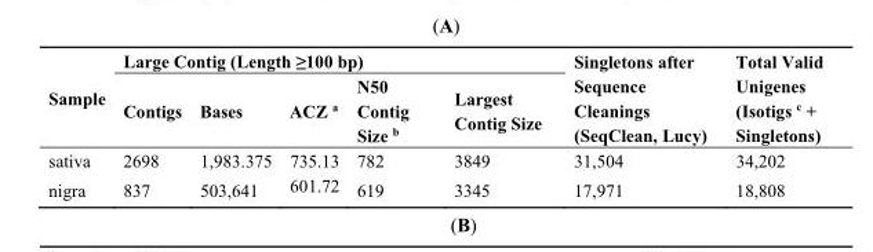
<table><thead><tr><td rowspan="2">Sample</td><td colspan="5">Large Contig (Length ≥100 bp)</td><td rowspan="2">Singletons after Sequence Cleanings (SeqClean, Lucy)</td><td rowspan="2">Total Valid Unigenes (Isotigs <sup>c</sup> + Singletons)</td></tr><tr><td>Contigs</td><td>Bases</td><td>ACZ <sup>a</sup></td><td>N50 Contig Size <sup>b</sup></td><td>Largest Contig Size</td></tr></thead><tbody><tr><td>sativa</td><td>2698</td><td>1,983.375</td><td>735.13</td><td>782</td><td>3849</td><td>31,504</td><td>34,202</td></tr><tr><td>nigra</td><td>837</td><td>503,641</td><td>601.72</td><td>619</td><td>3345</td><td>17,971</td><td>18,808</td></tr></tbody></table>